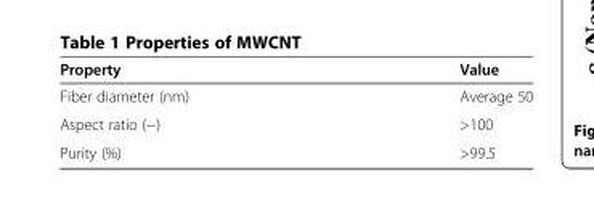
<table><thead><tr><td>Property</td><td>Value</td></tr></thead><tbody><tr><td>Fiber diameter (nm)</td><td>Average 50</td></tr><tr><td>Aspect ratio (−)</td><td>&gt;100</td></tr><tr><td>Purity (%)</td><td>&gt;99.5</td></tr></tbody></table>